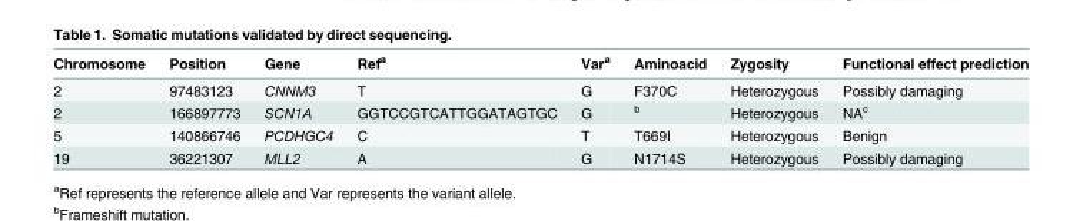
<table><thead><tr><td>Chromosome</td><td>Position</td><td>Gene</td><td>Ref<sup>a</sup></td><td>Var<sup>a</sup></td><td>Aminoacid</td><td>Zygosity</td><td>Functional effect prediction</td></tr></thead><tbody><tr><td>2</td><td>97483123</td><td>CNNM3</td><td>T</td><td>G</td><td>F370C</td><td>Heterozygous</td><td>Possibly damaging</td></tr><tr><td>2</td><td>166897773</td><td>SCN1A</td><td>GGTCCGTCATTGGATAGTGC</td><td>G</td><td><sup>b</sup></td><td>Heterozygous</td><td>NA<sup>c</sup></td></tr><tr><td>5</td><td>140866746</td><td>PCDHGC4</td><td>C</td><td>T</td><td>T669I</td><td>Heterozygous</td><td>Benign</td></tr><tr><td>19</td><td>36221307</td><td>MLL2</td><td>A</td><td>G</td><td>N1714S</td><td>Heterozygous</td><td>Possibly damaging</td></tr></tbody></table>